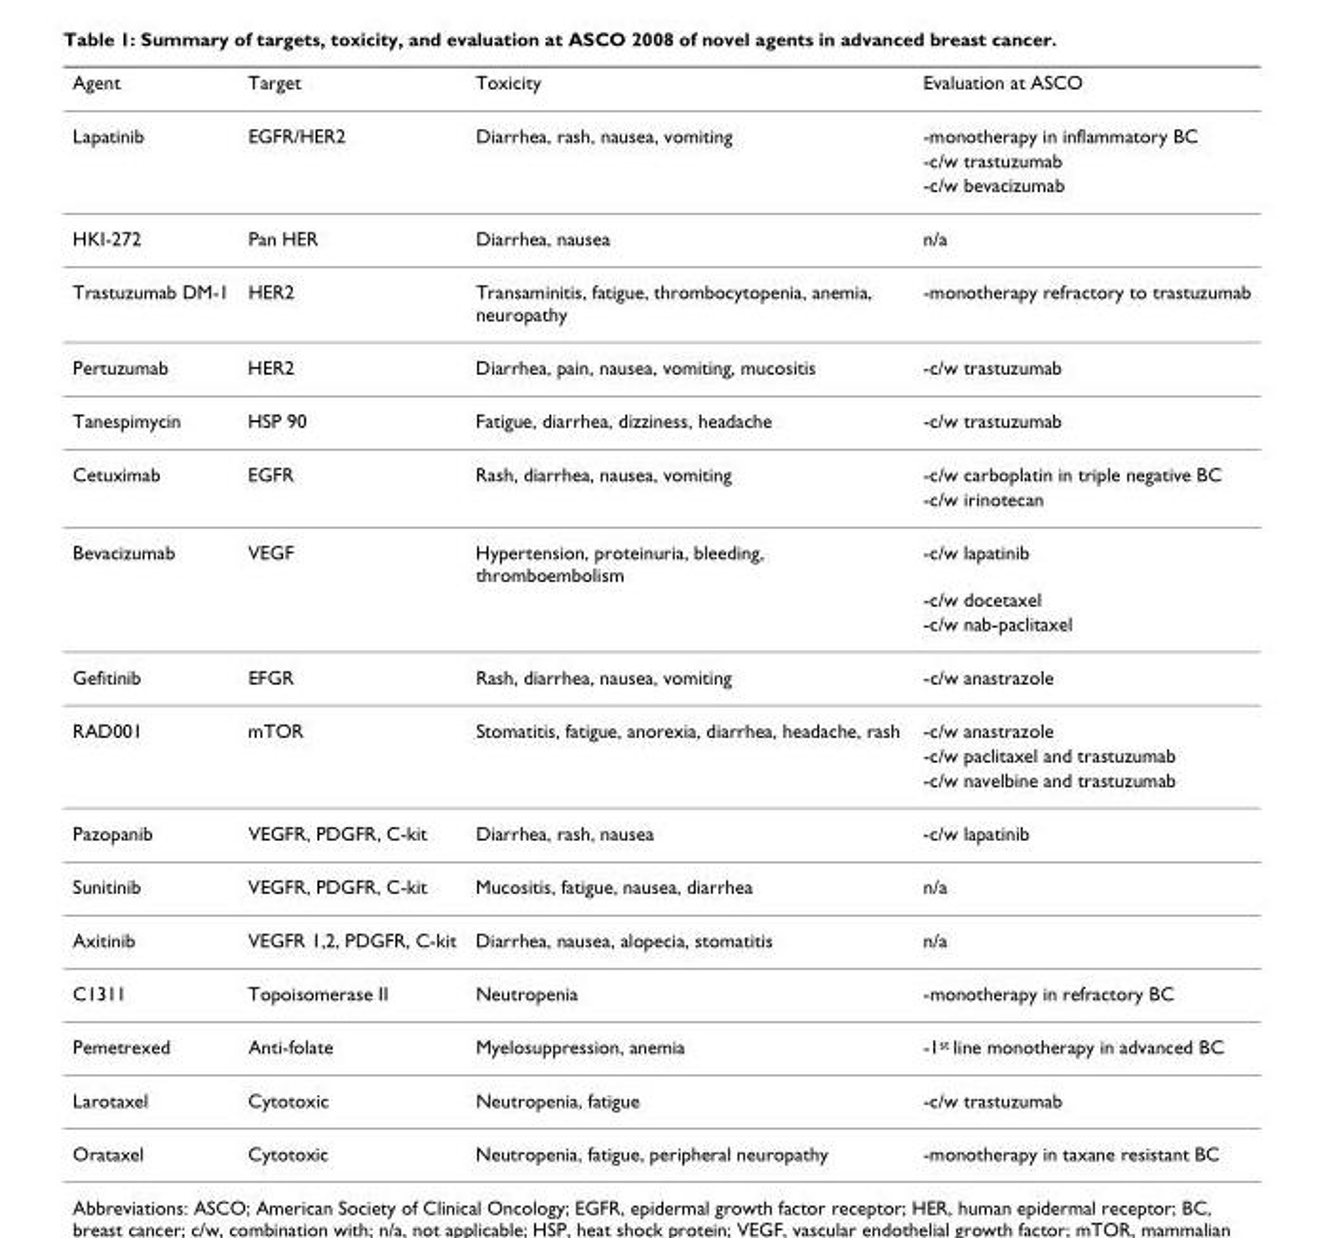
<table><thead><tr><td>Agent</td><td>Target</td><td>Toxicity</td><td>Evaluation at ASCO</td></tr></thead><tbody><tr><td rowspan="3">Lapatinib</td><td>EGFR/HER2</td><td>Diarrhea, rash, nausea, vomiting</td><td>-monotherapy in inflammatory BC</td></tr><tr><td></td><td></td><td>-c/w trastuzumab</td></tr><tr><td></td><td></td><td>-c/w bevacizumab</td></tr><tr><td>HKI-272</td><td>Pan HER</td><td>Diarrhea, nausea</td><td>n/a</td></tr><tr><td>Trastuzumab DM-1</td><td>HER2</td><td>Transaminitis, fatigue, thrombocytopenia, anemia, neuropathy</td><td>-monotherapy refractory to trastuzumab</td></tr><tr><td>Pertuzumab</td><td>HER2</td><td>Diarrhea, pain, nausea, vomiting, mucositis</td><td>-c/w trastuzumab</td></tr><tr><td>Tanespimycin</td><td>HSP 90</td><td>Fatigue, diarrhea, dizziness, headache</td><td>-c/w trastuzumab</td></tr><tr><td rowspan="2">Cetuximab</td><td>EGFR</td><td>Rash, diarrhea, nausea, vomiting</td><td>-c/w carboplatin in triple negative BC</td></tr><tr><td></td><td></td><td>-c/w irinotecan</td></tr><tr><td rowspan="3">Bevacizumab</td><td>VEGF</td><td>Hypertension, proteinuria, bleeding, thromboembolism</td><td>-c/w lapatinib</td></tr><tr><td></td><td></td><td>-c/w docetaxel</td></tr><tr><td></td><td></td><td>-c/w nab-paclitaxel</td></tr><tr><td>Gefitinib</td><td>EFGR</td><td>Rash, diarrhea, nausea, vomiting</td><td>-c/w anastrazole</td></tr><tr><td rowspan="3">RAD001</td><td>mTOR</td><td>Stomatitis, fatigue, anorexia, diarrhea, headache, rash</td><td>-c/w anastrazole</td></tr><tr><td></td><td></td><td>-c/w paclitaxel and trastuzumab</td></tr><tr><td></td><td></td><td>-c/w navelbine and trastuzumab</td></tr><tr><td>Pazopanib</td><td>VEGFR, PDGFR, C-kit</td><td>Diarrhea, rash, nausea</td><td>-c/w lapatinib</td></tr><tr><td>Sunitinib</td><td>VEGFR, PDGFR, C-kit</td><td>Mucositis, fatigue, nausea, diarrhea</td><td>n/a</td></tr><tr><td>Axitinib</td><td>VEGFR 1,2, PDGFR, C-kit</td><td>Diarrhea, nausea, alopecia, stomatitis</td><td>n/a</td></tr><tr><td>C1311</td><td>Topoisomerase II</td><td>Neutropenia</td><td>-monotherapy in refractory BC</td></tr><tr><td>Pemetrexed</td><td>Anti-folate</td><td>Myelosuppression, anemia</td><td>-1<sup>st</sup> line monotherapy in advanced BC</td></tr><tr><td>Larotaxel</td><td>Cytotoxic</td><td>Neutropenia, fatigue</td><td>-c/w trastuzumab</td></tr><tr><td>Orataxel</td><td>Cytotoxic</td><td>Neutropenia, fatigue, peripheral neuropathy</td><td>-monotherapy in taxane resistant BC</td></tr></tbody></table>